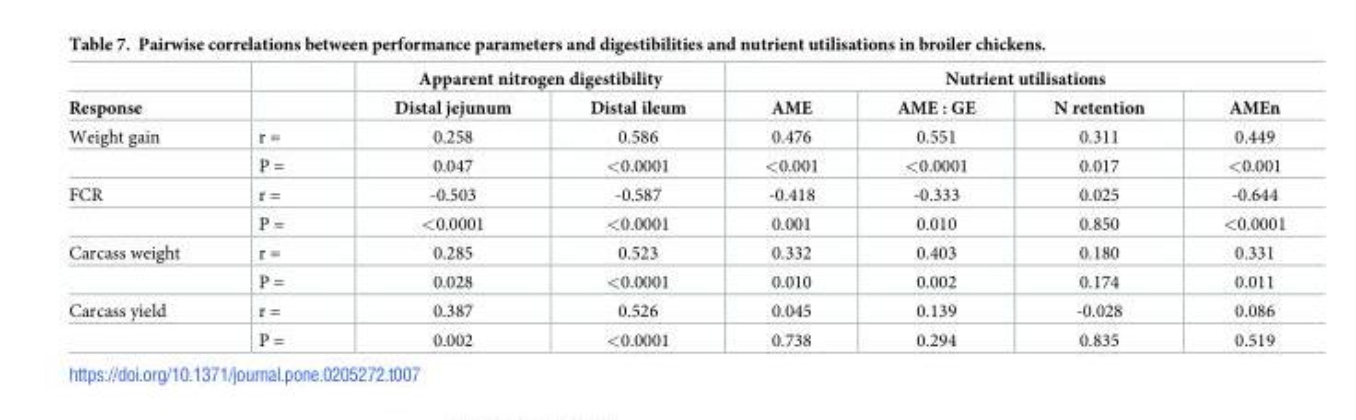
<table><thead><tr><td rowspan="2">Response</td><td rowspan="2"></td><td colspan="2">Apparent nitrogen digestibility</td><td colspan="4">Nutrient utilisations</td></tr><tr><td>Distal jejunum</td><td>Distal ileum</td><td>AME</td><td>AME : GE</td><td>N retention</td><td>AMEn</td></tr></thead><tbody><tr><td rowspan="2">Weight gain</td><td>r =</td><td>0.258</td><td>0.586</td><td>0.476</td><td>0.551</td><td>0.311</td><td>0.449</td></tr><tr><td>P =</td><td>0.047</td><td>&lt;0.0001</td><td>&lt;0.001</td><td>&lt;0.0001</td><td>0.017</td><td>&lt;0.001</td></tr><tr><td rowspan="2">FCR</td><td>r =</td><td>-0.503</td><td>-0.587</td><td>-0.418</td><td>-0.333</td><td>0.025</td><td>-0.644</td></tr><tr><td>P =</td><td>&lt;0.0001</td><td>&lt;0.0001</td><td>0.001</td><td>0.010</td><td>0.850</td><td>&lt;0.0001</td></tr><tr><td rowspan="2">Carcass weight</td><td>r =</td><td>0.285</td><td>0.523</td><td>0.332</td><td>0.403</td><td>0.180</td><td>0.331</td></tr><tr><td>P =</td><td>0.028</td><td>&lt;0.0001</td><td>0.010</td><td>0.002</td><td>0.174</td><td>0.011</td></tr><tr><td rowspan="2">Carcass yield</td><td>r =</td><td>0.387</td><td>0.526</td><td>0.045</td><td>0.139</td><td>-0.028</td><td>0.086</td></tr><tr><td>P =</td><td>0.002</td><td>&lt;0.0001</td><td>0.738</td><td>0.294</td><td>0.835</td><td>0.519</td></tr></tbody></table>